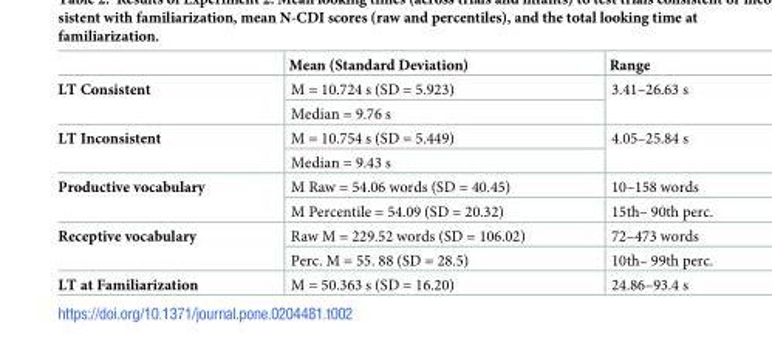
<table><thead><tr><td></td><td>Mean (Standard Deviation)</td><td>Range</td></tr></thead><tbody><tr><td rowspan="2">LT Consistent</td><td>M = 10.724 s (SD = 5.923)</td><td rowspan="2">3.41–26.63 s</td></tr><tr><td>Median = 9.76 s</td></tr><tr><td rowspan="2">LT Inconsistent</td><td>M = 10.754 s (SD = 5.449)</td><td rowspan="2">4.05–25.84 s</td></tr><tr><td>Median = 9.43 s</td></tr><tr><td rowspan="2">Productive vocabulary</td><td>M Raw = 54.06 words (SD = 40.45)</td><td>10–158 words</td></tr><tr><td>M Percentile = 54.09 (SD = 20.32)</td><td>15th– 90th perc.</td></tr><tr><td rowspan="2">Receptive vocabulary</td><td>Raw M = 229.52 words (SD = 106.02)</td><td>72–473 words</td></tr><tr><td>Perc. M = 55. 88 (SD = 28.5)</td><td>10th– 99th perc.</td></tr><tr><td>LT at Familiarization</td><td>M = 50.363 s (SD = 16.20)</td><td>24.86–93.4 s</td></tr></tbody></table>